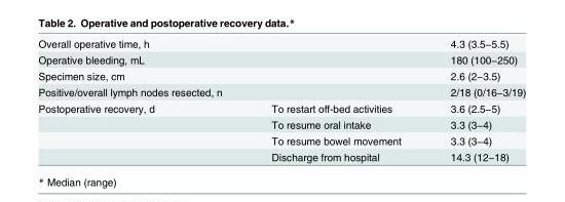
<table><tbody><tr><td>Overall operative time, h</td><td></td><td>4.3 (3.5−5.5)</td></tr><tr><td>Operative bleeding, mL</td><td></td><td>180 (100−250)</td></tr><tr><td>Specimen size, cm</td><td></td><td>2.6 (2−3.5)</td></tr><tr><td>Positive/overall lymph nodes resected, n</td><td></td><td>2/18 (0/16−3/19)</td></tr><tr><td rowspan="4">Postoperative recovery, d</td><td>To restart off-bed activities</td><td>3.6 (2.5−5)</td></tr><tr><td>To resume oral intake</td><td>3.3 (3−4)</td></tr><tr><td>To resume bowel movement</td><td>3.3 (3−4)</td></tr><tr><td>Discharge from hospital</td><td>14.3 (12−18)</td></tr></tbody></table>